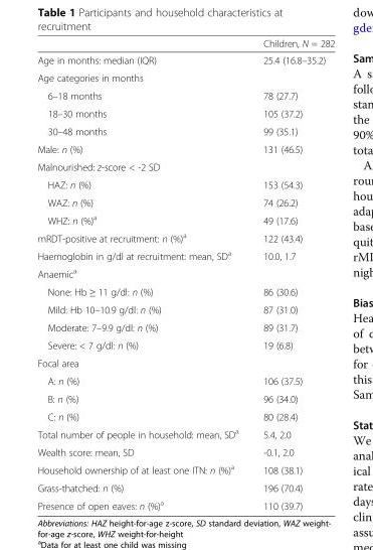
<table><thead><tr><td></td><td>Children, N = 282</td></tr></thead><tbody><tr><td>Age in months: median (IQR)</td><td>25.4 (16.8–35.2)</td></tr><tr><td colspan="2">Age categories in months</td></tr><tr><td>6–18 months</td><td>78 (27.7)</td></tr><tr><td>18–30 months</td><td>105 (37.2)</td></tr><tr><td>30–48 months</td><td>99 (35.1)</td></tr><tr><td>Male: n (%)</td><td>131 (46.5)</td></tr><tr><td colspan="2">Malnourished: z-score &lt; -2 SD</td></tr><tr><td>HAZ: n (%)</td><td>153 (54.3)</td></tr><tr><td>WAZ: n (%)</td><td>74 (26.2)</td></tr><tr><td>WHZ: n (%)<sup>a</sup></td><td>49 (17.6)</td></tr><tr><td>mRDT-positive at recruitment: n (%)<sup>a</sup></td><td>122 (43.4)</td></tr><tr><td>Haemoglobin in g/dl at recruitment: mean, SD<sup>a</sup></td><td>10.0, 1.7</td></tr><tr><td colspan="2">Anaemic<sup>a</sup></td></tr><tr><td>None: Hb ≥ 11 g/dl: n (%)</td><td>86 (30.6)</td></tr><tr><td>Mild: Hb 10–10.9 g/dl: n (%)</td><td>87 (31.0)</td></tr><tr><td>Moderate: 7–9.9 g/dl: n (%)</td><td>89 (31.7)</td></tr><tr><td>Severe: &lt; 7 g/dl: n (%)</td><td>19 (6.8)</td></tr><tr><td colspan="2">Focal area</td></tr><tr><td>A: n (%)</td><td>106 (37.5)</td></tr><tr><td>B: n (%)</td><td>96 (34.0)</td></tr><tr><td>C: n (%)</td><td>80 (28.4)</td></tr><tr><td>Total number of people in household: mean, SD<sup>a</sup></td><td>5.4, 2.0</td></tr><tr><td>Wealth score: mean, SD</td><td>-0.1, 2.0</td></tr><tr><td>Household ownership of at least one ITN: n (%)<sup>a</sup></td><td>108 (38.1)</td></tr><tr><td>Grass-thatched: n (%)</td><td>196 (70.4)</td></tr><tr><td>Presence of open eaves: n (%)<sup>a</sup></td><td>110 (39.7)</td></tr></tbody></table>